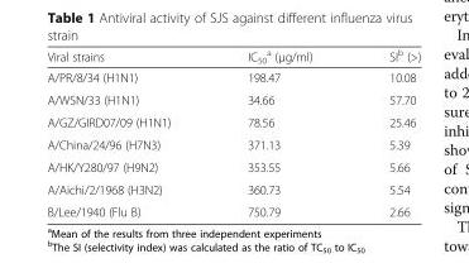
<table><thead><tr><td>Viral strains</td><td>IC<sub>50</sub> <sup>a</sup> (μg/ml)</td><td>SI<sup>b</sup> (&gt;)</td></tr></thead><tbody><tr><td>A/PR/8/34 (H1N1)</td><td>198.47</td><td>10.08</td></tr><tr><td>A/WSN/33 (H1N1)</td><td>34.66</td><td>57.70</td></tr><tr><td>A/GZ/GIRD07/09 (H1N1)</td><td>78.56</td><td>25.46</td></tr><tr><td>A/China/24/96 (H7N3)</td><td>371.13</td><td>5.39</td></tr><tr><td>A/HK/Y280/97 (H9N2)</td><td>353.55</td><td>5.66</td></tr><tr><td>A/Aichi/2/1968 (H3N2)</td><td>360.73</td><td>5.54</td></tr><tr><td>B/Lee/1940 (Flu B)</td><td>750.79</td><td>2.66</td></tr></tbody></table>